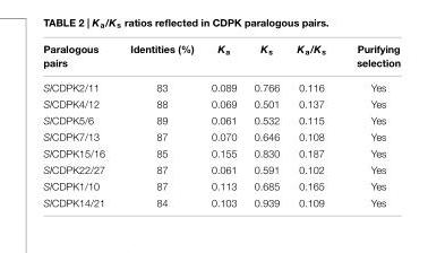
<table><thead><tr><td>Paralogous pairs</td><td>Identities (%)</td><td>K<sub>a</sub></td><td>K<sub>s</sub></td><td>K<sub>a</sub>/K<sub>s</sub></td><td>Purifying selection</td></tr></thead><tbody><tr><td>SlCDPK2/11</td><td>83</td><td>0.089</td><td>0.766</td><td>0.116</td><td>Yes</td></tr><tr><td>SlCDPK4/12</td><td>88</td><td>0.069</td><td>0.501</td><td>0.137</td><td>Yes</td></tr><tr><td>SlCDPK5/6</td><td>89</td><td>0.061</td><td>0.532</td><td>0.115</td><td>Yes</td></tr><tr><td>SlCDPK7/13</td><td>87</td><td>0.070</td><td>0.646</td><td>0.108</td><td>Yes</td></tr><tr><td>SlCDPK15/16</td><td>85</td><td>0.155</td><td>0.830</td><td>0.187</td><td>Yes</td></tr><tr><td>SlCDPK22/27</td><td>87</td><td>0.061</td><td>0.591</td><td>0.102</td><td>Yes</td></tr><tr><td>SlCDPK1/10</td><td>87</td><td>0.113</td><td>0.685</td><td>0.165</td><td>Yes</td></tr><tr><td>SlCDPK14/21</td><td>84</td><td>0.103</td><td>0.939</td><td>0.109</td><td>Yes</td></tr></tbody></table>